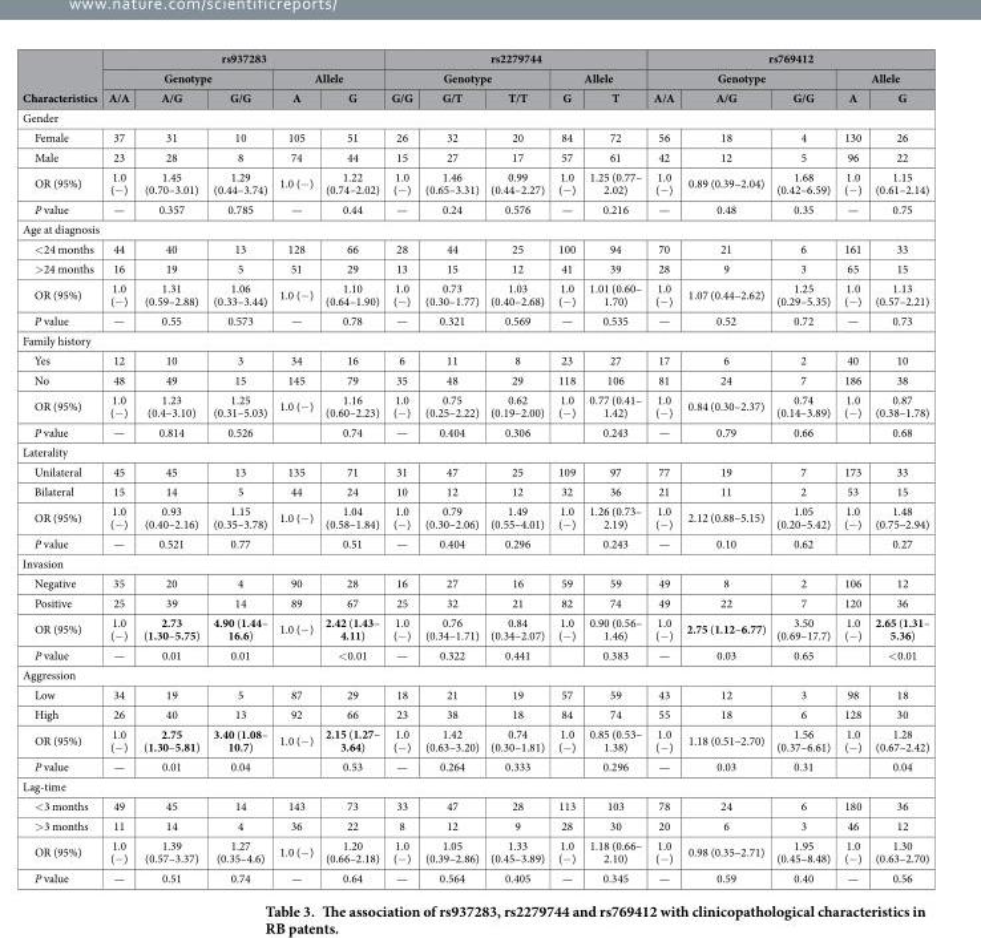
<table><thead><tr><td rowspan="3">Characteristics</td><td colspan="5">rs937283</td><td colspan="5">rs2279744</td><td colspan="5">rs769412</td></tr><tr><td colspan="3">Genotype</td><td colspan="2">Allele</td><td colspan="3">Genotype</td><td colspan="2">Allele</td><td colspan="3">Genotype</td><td colspan="2">Allele</td></tr><tr><td>A/A</td><td>A/G</td><td>G/G</td><td>A</td><td>G</td><td>G/G</td><td>G/T</td><td>T/T</td><td>G</td><td>T</td><td>A/A</td><td>A/G</td><td>G/G</td><td>A</td><td>G</td></tr></thead><tbody><tr><td colspan="16">Gender</td></tr><tr><td>Female</td><td>37</td><td>31</td><td>10</td><td>105</td><td>51</td><td>26</td><td>32</td><td>20</td><td>84</td><td>72</td><td>56</td><td>18</td><td>4</td><td>130</td><td>26</td></tr><tr><td>Male</td><td>23</td><td>28</td><td>8</td><td>74</td><td>44</td><td>15</td><td>27</td><td>17</td><td>57</td><td>61</td><td>42</td><td>12</td><td>5</td><td>96</td><td>22</td></tr><tr><td>OR (95%)</td><td>1.0 (− )</td><td>1.45 (0.70–3.01)</td><td>1.29 (0.44–3.74)</td><td>1.0 (− )</td><td>1.22 (0.74–2.02)</td><td>1.0 (− )</td><td>1.46 (0.65–3.31)</td><td>0.99 (0.44–2.27)</td><td>1.0 (− )</td><td>1.25 (0.77– 2.02)</td><td>1.0 (− )</td><td>0.89 (0.39–2.04)</td><td>1.68 (0.42–6.59)</td><td>1.0 (− )</td><td>1.15 (0.61–2.14)</td></tr><tr><td>P value</td><td>—</td><td>0.357</td><td>0.785</td><td>—</td><td>0.44</td><td>—</td><td>0.24</td><td>0.576</td><td>—</td><td>0.216</td><td>—</td><td>0.48</td><td>0.35</td><td>—</td><td>0.75</td></tr><tr><td colspan="16">Age at diagnosis</td></tr><tr><td>&lt; 24 months</td><td>44</td><td>40</td><td>13</td><td>128</td><td>66</td><td>28</td><td>44</td><td>25</td><td>100</td><td>94</td><td>70</td><td>21</td><td>6</td><td>161</td><td>33</td></tr><tr><td>&gt; 24 months</td><td>16</td><td>19</td><td>5</td><td>51</td><td>29</td><td>13</td><td>15</td><td>12</td><td>41</td><td>39</td><td>28</td><td>9</td><td>3</td><td>65</td><td>15</td></tr><tr><td>OR (95%)</td><td>1.0 (− )</td><td>1.31 (0.59–2.88)</td><td>1.06 (0.33–3.44)</td><td>1.0 (− )</td><td>1.10 (0.64–1.90)</td><td>1.0 (− )</td><td>0.73 (0.30–1.77)</td><td>1.03 (0.40–2.68)</td><td>1.0 (− )</td><td>1.01 (0.60– 1.70)</td><td>1.0 (− )</td><td>1.07 (0.44–2.62)</td><td>1.25 (0.29–5.35)</td><td>1.0 (− )</td><td>1.13 (0.57–2.21)</td></tr><tr><td>P value</td><td>—</td><td>0.55</td><td>0.573</td><td>—</td><td>0.78</td><td>—</td><td>0.321</td><td>0.569</td><td>—</td><td>0.535</td><td>—</td><td>0.52</td><td>0.72</td><td>—</td><td>0.73</td></tr><tr><td colspan="16">Family history</td></tr><tr><td>Yes</td><td>12</td><td>10</td><td>3</td><td>34</td><td>16</td><td>6</td><td>11</td><td>8</td><td>23</td><td>27</td><td>17</td><td>6</td><td>2</td><td>40</td><td>10</td></tr><tr><td>No</td><td>48</td><td>49</td><td>15</td><td>145</td><td>79</td><td>35</td><td>48</td><td>29</td><td>118</td><td>106</td><td>81</td><td>24</td><td>7</td><td>186</td><td>38</td></tr><tr><td>OR (95%)</td><td>1.0 (− )</td><td>1.23 (0.4–3.10)</td><td>1.25 (0.31–5.03)</td><td>1.0 (− )</td><td>1.16 (0.60–2.23)</td><td>1.0 (− )</td><td>0.75 (0.25–2.22)</td><td>0.62 (0.19–2.00)</td><td>1.0 (− )</td><td>0.77 (0.41– 1.42)</td><td>1.0 (− )</td><td>0.84 (0.30–2.37)</td><td>0.74 (0.14–3.89)</td><td>1.0 (− )</td><td>0.87 (0.38–1.78)</td></tr><tr><td>P value</td><td>—</td><td>0.814</td><td>0.526</td><td></td><td>0.74</td><td>—</td><td>0.404</td><td>0.306</td><td></td><td>0.243</td><td>—</td><td>0.79</td><td>0.66</td><td></td><td>0.68</td></tr><tr><td colspan="16">Laterality</td></tr><tr><td>Unilateral</td><td>45</td><td>45</td><td>13</td><td>135</td><td>71</td><td>31</td><td>47</td><td>25</td><td>109</td><td>97</td><td>77</td><td>19</td><td>7</td><td>173</td><td>33</td></tr><tr><td>Bilateral</td><td>15</td><td>14</td><td>5</td><td>44</td><td>24</td><td>10</td><td>12</td><td>12</td><td>32</td><td>36</td><td>21</td><td>11</td><td>2</td><td>53</td><td>15</td></tr><tr><td>OR (95%)</td><td>1.0 (− )</td><td>0.93 (0.40–2.16)</td><td>1.15 (0.35–3.78)</td><td>1.0 (− )</td><td>1.04 (0.58–1.84)</td><td>1.0 (− )</td><td>0.79 (0.30–2.06)</td><td>1.49 (0.55–4.01)</td><td>1.0 (− )</td><td>1.26 (0.73– 2.19)</td><td>1.0 (− )</td><td>2.12 (0.88–5.15)</td><td>1.05 (0.20–5.42)</td><td>1.0 (− )</td><td>1.48 (0.75–2.94)</td></tr><tr><td>P value</td><td>—</td><td>0.521</td><td>0.77</td><td></td><td>0.51</td><td>—</td><td>0.404</td><td>0.296</td><td></td><td>0.243</td><td>—</td><td>0.10</td><td>0.62</td><td></td><td>0.27</td></tr><tr><td colspan="16">Invasion</td></tr><tr><td>Negative</td><td>35</td><td>20</td><td>4</td><td>90</td><td>28</td><td>16</td><td>27</td><td>16</td><td>59</td><td>59</td><td>49</td><td>8</td><td>2</td><td>106</td><td>12</td></tr><tr><td>Positive</td><td>25</td><td>39</td><td>14</td><td>89</td><td>67</td><td>25</td><td>32</td><td>21</td><td>82</td><td>74</td><td>49</td><td>22</td><td>7</td><td>120</td><td>36</td></tr><tr><td>OR (95%)</td><td>1.0 (− )</td><td>2.73 (1.30–5.75)</td><td>4.90 (1.44– 16.6)</td><td>1.0 (− )</td><td>2.42 (1.43– 4.11)</td><td>1.0 (− )</td><td>0.76 (0.34–1.71)</td><td>0.84 (0.34–2.07)</td><td>1.0 (− )</td><td>0.90 (0.56– 1.46)</td><td>1.0 (− )</td><td>2.75 (1.12–6.77)</td><td>3.50 (0.69–17.7)</td><td>1.0 (− )</td><td>2.65 (1.31– 5.36)</td></tr><tr><td>P value</td><td>—</td><td>0.01</td><td>0.01</td><td></td><td>&lt; 0.01</td><td>—</td><td>0.322</td><td>0.441</td><td></td><td>0.383</td><td>—</td><td>0.03</td><td>0.65</td><td></td><td>&lt; 0.01</td></tr><tr><td colspan="16">Aggression</td></tr><tr><td>Low</td><td>34</td><td>19</td><td>5</td><td>87</td><td>29</td><td>18</td><td>21</td><td>19</td><td>57</td><td>59</td><td>43</td><td>12</td><td>3</td><td>98</td><td>18</td></tr><tr><td>High</td><td>26</td><td>40</td><td>13</td><td>92</td><td>66</td><td>23</td><td>38</td><td>18</td><td>84</td><td>74</td><td>55</td><td>18</td><td>6</td><td>128</td><td>30</td></tr><tr><td>OR (95%)</td><td>1.0 (− )</td><td>2.75 (1.30–5.81)</td><td>3.40 (1.08– 10.7)</td><td>1.0 (− )</td><td>2.15 (1.27– 3.64)</td><td>1.0 (− )</td><td>1.42 (0.63–3.20)</td><td>0.74 (0.30–1.81)</td><td>1.0 (− )</td><td>0.85 (0.53– 1.38)</td><td>1.0 (− )</td><td>1.18 (0.51–2.70)</td><td>1.56 (0.37–6.61)</td><td>1.0 (− )</td><td>1.28 (0.67–2.42)</td></tr><tr><td>P value</td><td>—</td><td>0.01</td><td>0.04</td><td></td><td>0.53</td><td>—</td><td>0.264</td><td>0.333</td><td></td><td>0.296</td><td>—</td><td>0.03</td><td>0.31</td><td></td><td>0.04</td></tr><tr><td colspan="16">Lag-time</td></tr><tr><td>&lt; 3 months</td><td>49</td><td>45</td><td>14</td><td>143</td><td>73</td><td>33</td><td>47</td><td>28</td><td>113</td><td>103</td><td>78</td><td>24</td><td>6</td><td>180</td><td>36</td></tr><tr><td>&gt; 3 months</td><td>11</td><td>14</td><td>4</td><td>36</td><td>22</td><td>8</td><td>12</td><td>9</td><td>28</td><td>30</td><td>20</td><td>6</td><td>3</td><td>46</td><td>12</td></tr><tr><td>OR (95%)</td><td>1.0 (− )</td><td>1.39 (0.57–3.37)</td><td>1.27 (0.35–4.6)</td><td>1.0 (− )</td><td>1.20 (0.66–2.18)</td><td>1.0 (− )</td><td>1.05 (0.39–2.86)</td><td>1.33 (0.45–3.89)</td><td>1.0 (− )</td><td>1.18 (0.66– 2.10)</td><td>1.0 (− )</td><td>0.98 (0.35–2.71)</td><td>1.95 (0.45–8.48)</td><td>1.0 (− )</td><td>1.30 (0.63–2.70)</td></tr><tr><td>P value</td><td>—</td><td>0.51</td><td>0.74</td><td>—</td><td>0.64</td><td>—</td><td>0.564</td><td>0.405</td><td>—</td><td>0.345</td><td>—</td><td>0.59</td><td>0.40</td><td>—</td><td>0.56</td></tr></tbody></table>